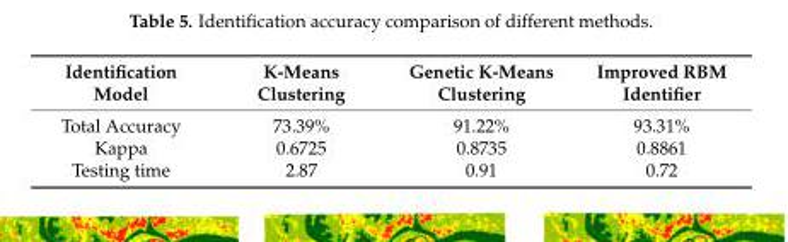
<table><thead><tr><td>Identification Model</td><td>K-Means Clustering</td><td>Genetic K-Means Clustering</td><td>Improved RBM Identifier</td></tr></thead><tbody><tr><td>Total Accuracy</td><td>73.39%</td><td>91.22%</td><td>93.31%</td></tr><tr><td>Kappa</td><td>0.6725</td><td>0.8735</td><td>0.8861</td></tr><tr><td>Testing time</td><td>2.87</td><td>0.91</td><td>0.72</td></tr></tbody></table>